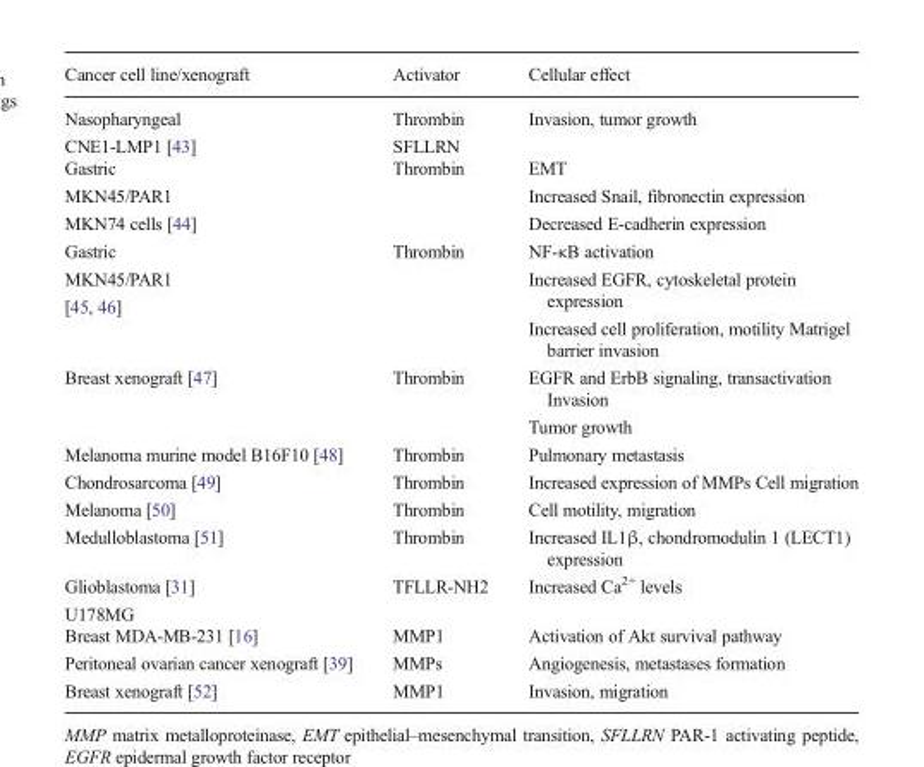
<table><thead><tr><td>Cancer cell line/xenograft</td><td>Activator</td><td>Cellular effect</td></tr></thead><tbody><tr><td>Nasopharyngeal CNE1-LMP1 [43]</td><td>Thrombin SFLLRN</td><td>Invasion, tumor growth</td></tr><tr><td>Gastric MKN45/PAR1 MKN74 cells [44]</td><td>Thrombin</td><td>EMT Increased Snail, fibronectin expression Decreased E-cadherin expression</td></tr><tr><td>Gastric MKN45/PAR1 [45, 46]</td><td>Thrombin</td><td>NF-κB activation Increased EGFR, cytoskeletal protein expression Increased cell proliferation, motility Matrigel barrier invasion</td></tr><tr><td>Breast xenograft [47]</td><td>Thrombin</td><td>EGFR and ErbB signaling, transactivation Invasion Tumor growth</td></tr><tr><td>Melanoma murine model B16F10 [48]</td><td>Thrombin</td><td>Pulmonary metastasis</td></tr><tr><td>Chondrosarcoma [49]</td><td>Thrombin</td><td>Increased expression of MMPs Cell migration</td></tr><tr><td>Melanoma [50]</td><td>Thrombin</td><td>Cell motility, migration</td></tr><tr><td>Medulloblastoma [51]</td><td>Thrombin</td><td>Increased IL1β, chondromodulin 1 (LECT1) expression</td></tr><tr><td>Glioblastoma [31] U178MG</td><td>TFLLR-NH2</td><td>Increased Ca<sup>2+</sup> levels</td></tr><tr><td>Breast MDA-MB-231 [16]</td><td>MMP1</td><td>Activation of Akt survival pathway</td></tr><tr><td>Peritoneal ovarian cancer xenograft [39]</td><td>MMPs</td><td>Angiogenesis, metastases formation</td></tr><tr><td>Breast xenograft [52]</td><td>MMP1</td><td>Invasion, migration</td></tr></tbody></table>